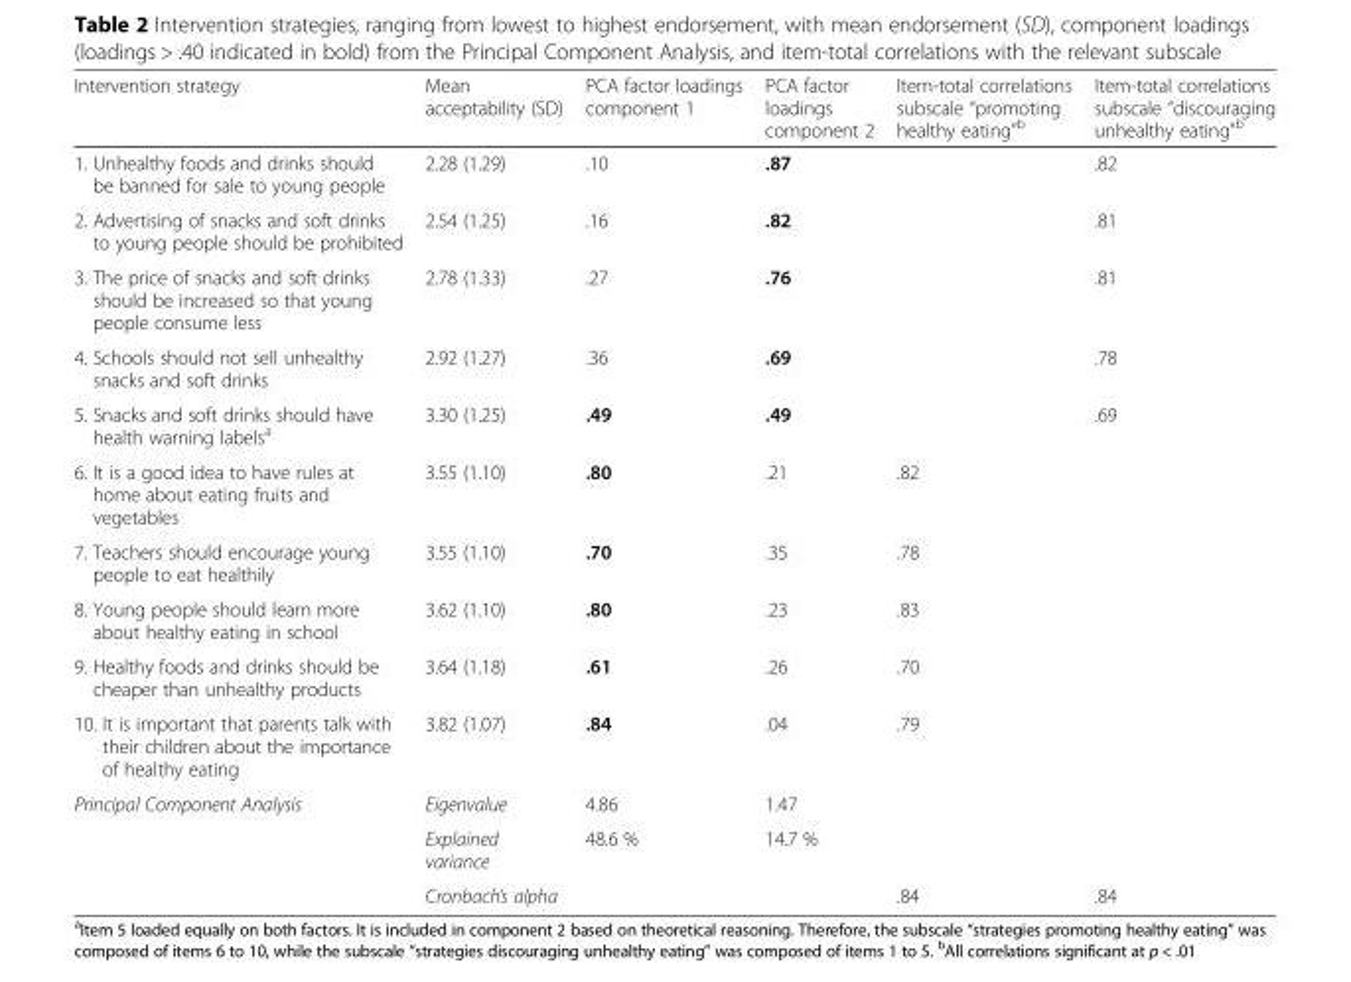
<table><thead><tr><td>Intervention strategy</td><td>Mean acceptability (SD)</td><td>PCA factor loadings component 1</td><td>PCA factor loadings component 2</td><td>Item-total correlations subscale “promoting healthy eating”<sup>b</sup></td><td>Item-total correlations subscale “discouraging unhealthy eating”<sup>b</sup></td></tr></thead><tbody><tr><td>1. Unhealthy foods and drinks should be banned for sale to young people</td><td>2.28 (1.29)</td><td>.10</td><td>.87</td><td></td><td>.82</td></tr><tr><td>2. Advertising of snacks and soft drinks to young people should be prohibited</td><td>2.54 (1.25)</td><td>.16</td><td>.82</td><td></td><td>.81</td></tr><tr><td>3. The price of snacks and soft drinks should be increased so that young people consume less</td><td>2.78 (1.33)</td><td>.27</td><td>.76</td><td></td><td>.81</td></tr><tr><td>4. Schools should not sell unhealthy snacks and soft drinks</td><td>2.92 (1.27)</td><td>.36</td><td>.69</td><td></td><td>.78</td></tr><tr><td>5. Snacks and soft drinks should have health warning labels<sup>a</sup></td><td>3.30 (1.25)</td><td>.49</td><td>.49</td><td></td><td>.69</td></tr><tr><td>6. It is a good idea to have rules at home about eating fruits and vegetables</td><td>3.55 (1.10)</td><td>.80</td><td>.21</td><td>.82</td><td></td></tr><tr><td>7. Teachers should encourage young people to eat healthily</td><td>3.55 (1.10)</td><td>.70</td><td>.35</td><td>.78</td><td></td></tr><tr><td>8. Young people should learn more about healthy eating in school</td><td>3.62 (1.10)</td><td>.80</td><td>.23</td><td>.83</td><td></td></tr><tr><td>9. Healthy foods and drinks should be cheaper than unhealthy products</td><td>3.64 (1.18)</td><td>.61</td><td>.26</td><td>.70</td><td></td></tr><tr><td>10. It is important that parents talk with their children about the importance of healthy eating</td><td>3.82 (1.07)</td><td>.84</td><td>.04</td><td>.79</td><td></td></tr><tr><td rowspan="3">Principal Component Analysis</td><td>Eigenvalue</td><td>4.86</td><td>1.47</td><td></td><td></td></tr><tr><td>Explained variance</td><td>48.6 %</td><td>14.7 %</td><td></td><td></td></tr><tr><td>Cronbach’s alpha</td><td></td><td></td><td>.84</td><td>.84</td></tr></tbody></table>